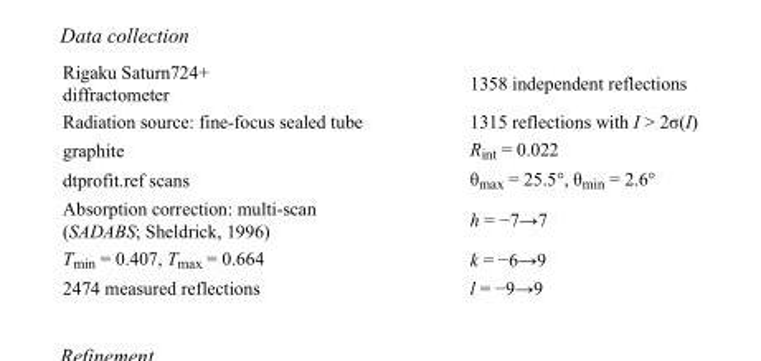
<table><tbody><tr><td>Rigaku Saturn724+ diffractometer</td><td>1358 independent reflections</td></tr><tr><td>Radiation source: fine-focus sealed tube</td><td>1315 reflections with I &gt; 2σ(I)</td></tr><tr><td>graphite</td><td>R<sub>int</sub> = 0.022</td></tr><tr><td>dtprofit.ref scans</td><td>θ<sub>max</sub> = 25.5°, θ<sub>min</sub> = 2.6°</td></tr><tr><td>Absorption correction: multi-scan (SADABS; Sheldrick, 1996)</td><td>h = −7→7</td></tr><tr><td>T<sub>min</sub> = 0.407, T<sub>max</sub> = 0.664</td><td>k = −6→9</td></tr><tr><td>2474 measured reflections</td><td>l = −9→9</td></tr></tbody></table>